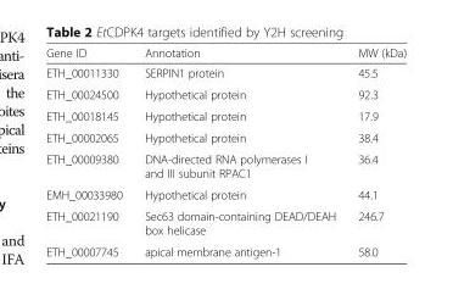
<table><thead><tr><td>Gene ID</td><td>Annotation</td><td>MW (kDa)</td></tr></thead><tbody><tr><td>ETH_00011330</td><td>SERPIN1 protein</td><td>45.5</td></tr><tr><td>ETH_00024500</td><td>Hypothetical protein</td><td>92.3</td></tr><tr><td>ETH_00018145</td><td>Hypothetical protein</td><td>17.9</td></tr><tr><td>ETH_00002065</td><td>Hypothetical protein</td><td>38.4</td></tr><tr><td>ETH_00009380</td><td>DNA-directed RNA polymerases I and III subunit RPAC1</td><td>36.4</td></tr><tr><td>EMH_00033980</td><td>Hypothetical protein</td><td>44.1</td></tr><tr><td>ETH_00021190</td><td>Sec63 domain-containing DEAD/DEAH box helicase</td><td>246.7</td></tr><tr><td>ETH_00007745</td><td>apical membrane antigen-1</td><td>58.0</td></tr></tbody></table>